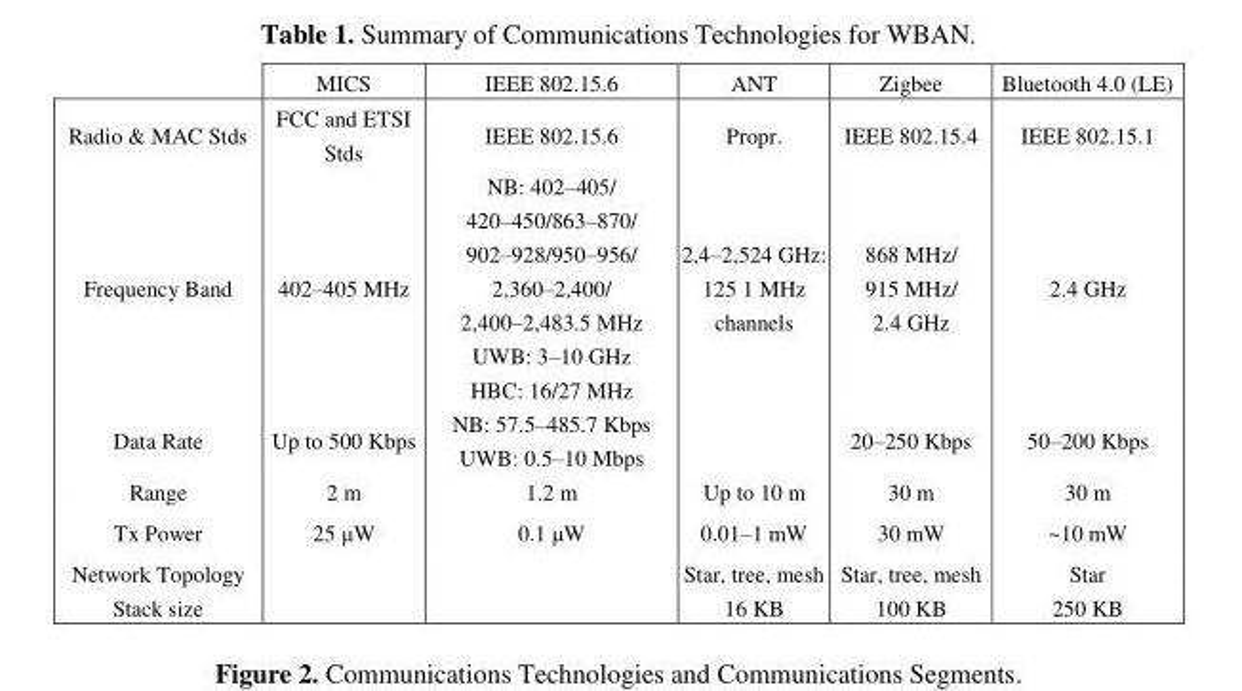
<table><thead><tr><td></td><td>MICS</td><td>IEEE 802.15.6</td><td>ANT</td><td>Zigbee</td><td>Bluetooth 4.0 (LE)</td></tr></thead><tbody><tr><td>Radio &amp; MAC Stds</td><td>FCC and ETSI Stds</td><td>IEEE 802.15.6</td><td>Propr.</td><td>IEEE 802.15.4</td><td>IEEE 802.15.1</td></tr><tr><td>Frequency Band</td><td>402–405 MHz</td><td>NB: 402–405/ 420–450/863–870/ 902–928/950–956/ 2,360–2,400/ 2,400–2,483.5 MHz UWB: 3–10 GHz HBC: 16/27 MHz</td><td>2,4–2,524 GHz: 125 1 MHz channels</td><td>868 MHz/ 915 MHz/ 2.4 GHz</td><td>2.4 GHz</td></tr><tr><td>Data Rate</td><td>Up to 500 Kbps</td><td>NB: 57.5–485.7 Kbps UWB: 0.5–10 Mbps</td><td></td><td>20–250 Kbps</td><td>50–200 Kbps</td></tr><tr><td>Range</td><td>2 m</td><td>1.2 m</td><td>Up to 10 m</td><td>30 m</td><td>30 m</td></tr><tr><td>Tx Power</td><td>25 μW</td><td>0.1 μW</td><td>0.01–1 mW</td><td>30 mW</td><td>~10 mW</td></tr><tr><td>Network Topology</td><td></td><td></td><td>Star, tree, mesh</td><td>Star, tree, mesh</td><td>Star</td></tr><tr><td>Stack size</td><td></td><td></td><td>16 KB</td><td>100 KB</td><td>250 KB</td></tr></tbody></table>